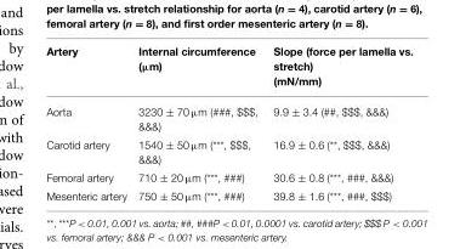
<table><thead><tr><td>Artery</td><td>Internal circumference (µm)</td><td>Slope (force per lamella vs. stretch) (mN/mm)</td></tr></thead><tbody><tr><td>Aorta</td><td>3230 ± 70 µm (###, $$$, &amp;&amp;&amp;)</td><td>9.9 ± 3.4 (##, $$$, &amp;&amp;&amp;)</td></tr><tr><td>Carotid artery</td><td>1540 ± 50 µm (***, $$$, &amp;&amp;&amp;)</td><td>16.9 ± 0.6 (**, $$$, &amp;&amp;&amp;)</td></tr><tr><td>Femoral artery</td><td>710 ± 20 µm (***, ###)</td><td>30.6 ± 0.8 (***, ###, &amp;&amp;&amp;)</td></tr><tr><td>Mesenteric artery</td><td>750 ± 50 µm (***, ###)</td><td>39.8 ± 1.6 (***, ###, $$$)</td></tr></tbody></table>